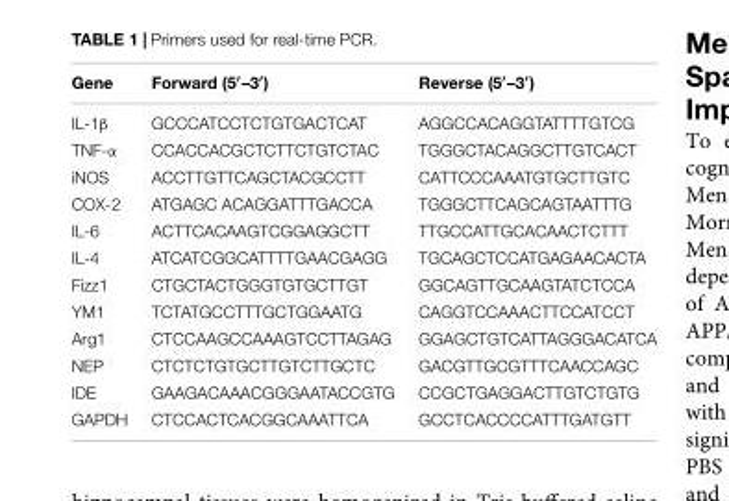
<table><thead><tr><td>Gene</td><td>Forward (5′–3′)</td><td>Reverse (5′–3′)</td></tr></thead><tbody><tr><td>IL-1β</td><td>GCCCATCCTCTGTGACTCAT</td><td>AGGCCACAGGTATTTTGTCG</td></tr><tr><td>TNF-α</td><td>CCACCACGCTCTTCTGTCTAC</td><td>TGGGCTACAGGCTTGTCACT</td></tr><tr><td>iNOS</td><td>ACCTTGTTCAGCTACGCCTT</td><td>CATTCCCAAATGTGCTTGTC</td></tr><tr><td>COX-2</td><td>ATGAGC ACAGGATTTGACCA</td><td>TGGGCTTCAGCAGTAATTTG</td></tr><tr><td>IL-6</td><td>ACTTCACAAGTCGGAGGCTT</td><td>TTGCCATTGCACAACTCTTT</td></tr><tr><td>IL-4</td><td>ATCATCGGCATTTTGAACGAGG</td><td>TGCAGCTCCATGAGAACACTA</td></tr><tr><td>Fizz1</td><td>CTGCTACTGGGTGTGCTTGT</td><td>GGCAGTTGCAAGTATCTCCA</td></tr><tr><td>YM1</td><td>TCTATGCCTTTGCTGGAATG</td><td>CAGGTCCAAACTTCCATCCT</td></tr><tr><td>Arg1</td><td>CTCCAAGCCAAAGTCCTTAGAG</td><td>GGAGCTGTCATTAGGGACATCA</td></tr><tr><td>NEP</td><td>CTCTCTGTGCTTGTCTTGCTC</td><td>GACGTTGCGTTTCAACCAGC</td></tr><tr><td>IDE</td><td>GAAGACAAACGGGAATACCGTG</td><td>CCGCTGAGGACTTGTCTGTG</td></tr><tr><td>GAPDH</td><td>CTCCACTCACGGCAAATTCA</td><td>GCCTCACCCCATTTGATGTT</td></tr></tbody></table>